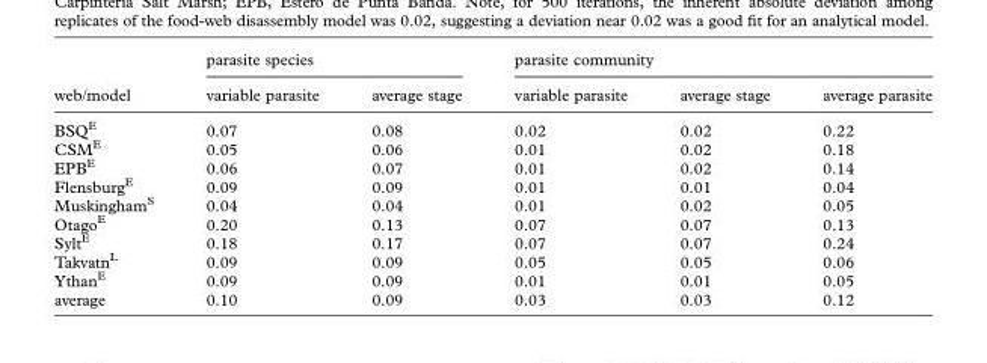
<table><thead><tr><td rowspan="2">web/model</td><td colspan="2">parasite species</td><td colspan="3">parasite community</td></tr><tr><td>variable parasite</td><td>average stage</td><td>variable parasite</td><td>average stage</td><td>average parasite</td></tr></thead><tbody><tr><td>BSQ<sup>E</sup></td><td>0.07</td><td>0.08</td><td>0.02</td><td>0.02</td><td>0.22</td></tr><tr><td>CSM<sup>E</sup></td><td>0.05</td><td>0.06</td><td>0.01</td><td>0.02</td><td>0.18</td></tr><tr><td>EPB<sup>E</sup></td><td>0.06</td><td>0.07</td><td>0.01</td><td>0.02</td><td>0.14</td></tr><tr><td>Flensburg<sup>E</sup></td><td>0.09</td><td>0.09</td><td>0.01</td><td>0.01</td><td>0.04</td></tr><tr><td>Muskingham<sup>S</sup></td><td>0.04</td><td>0.04</td><td>0.01</td><td>0.02</td><td>0.05</td></tr><tr><td>Otago<sup>E</sup></td><td>0.20</td><td>0.13</td><td>0.07</td><td>0.07</td><td>0.13</td></tr><tr><td>Sylt<sup>E</sup></td><td>0.18</td><td>0.17</td><td>0.07</td><td>0.07</td><td>0.24</td></tr><tr><td>Takvatn<sup>L</sup></td><td>0.09</td><td>0.09</td><td>0.05</td><td>0.05</td><td>0.06</td></tr><tr><td>Ythan<sup>E</sup></td><td>0.09</td><td>0.09</td><td>0.01</td><td>0.01</td><td>0.05</td></tr><tr><td>average</td><td>0.10</td><td>0.09</td><td>0.03</td><td>0.03</td><td>0.12</td></tr></tbody></table>